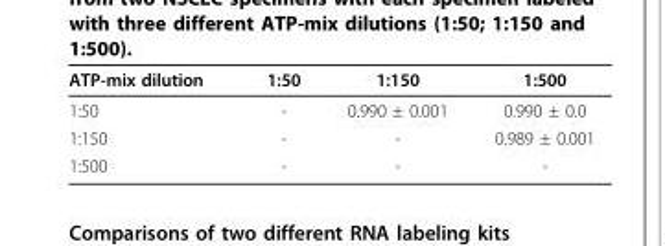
<table><thead><tr><td>ATP-mix dilution</td><td>1:50</td><td>1:150</td><td>1:500</td></tr></thead><tbody><tr><td>1:50</td><td>-</td><td>0.990 ± 0.001</td><td>0.990 ± 0.0</td></tr><tr><td>1:150</td><td>-</td><td>-</td><td>0.989 ± 0.001</td></tr><tr><td>1:500</td><td>-</td><td>-</td><td>-</td></tr></tbody></table>